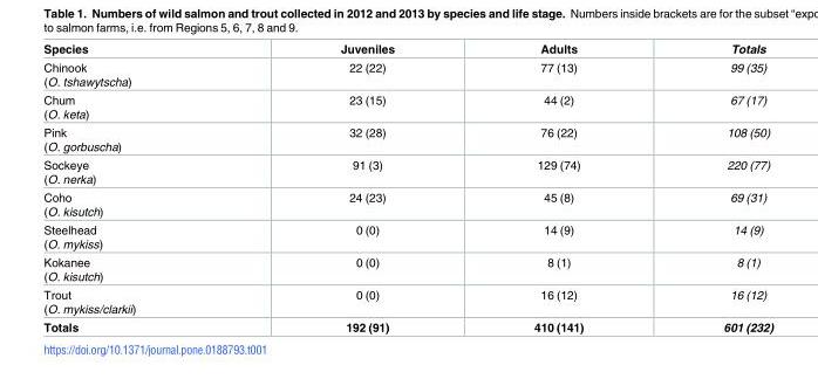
<table><thead><tr><td>Species</td><td>Juveniles</td><td>Adults</td><td>Totals</td></tr></thead><tbody><tr><td>Chinook (O. tshawytscha)</td><td>22 (22)</td><td>77 (13)</td><td>99 (35)</td></tr><tr><td>Chum (O. keta)</td><td>23 (15)</td><td>44 (2)</td><td>67 (17)</td></tr><tr><td>Pink (O. gorbuscha)</td><td>32 (28)</td><td>76 (22)</td><td>108 (50)</td></tr><tr><td>Sockeye (O. nerka)</td><td>91 (3)</td><td>129 (74)</td><td>220 (77)</td></tr><tr><td>Coho (O. kisutch)</td><td>24 (23)</td><td>45 (8)</td><td>69 (31)</td></tr><tr><td>Steelhead (O. mykiss)</td><td>0 (0)</td><td>14 (9)</td><td>14 (9)</td></tr><tr><td>Kokanee (O. kisutch)</td><td>0 (0)</td><td>8 (1)</td><td>8 (1)</td></tr><tr><td>Trout (O. mykiss/clarkii)</td><td>0 (0)</td><td>16 (12)</td><td>16 (12)</td></tr><tr><td>Totals</td><td>192 (91)</td><td>410 (141)</td><td>601 (232)</td></tr></tbody></table>